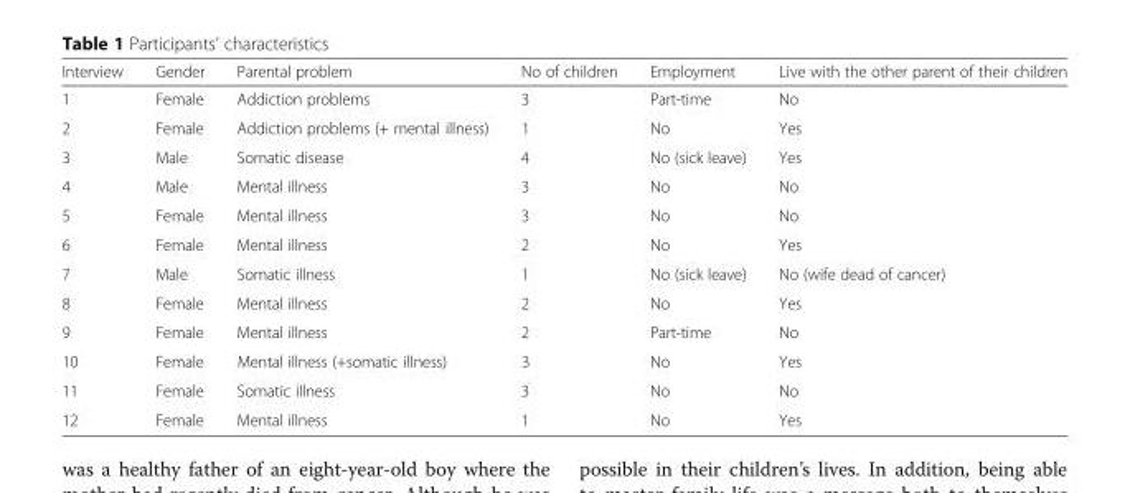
<table><thead><tr><td>Interview</td><td>Gender</td><td>Parental problem</td><td>No of children</td><td>Employment</td><td>Live with the other parent of their children</td></tr></thead><tbody><tr><td>1</td><td>Female</td><td>Addiction problems</td><td>3</td><td>Part-time</td><td>No</td></tr><tr><td>2</td><td>Female</td><td>Addiction problems (+ mental illness)</td><td>1</td><td>No</td><td>Yes</td></tr><tr><td>3</td><td>Male</td><td>Somatic disease</td><td>4</td><td>No (sick leave)</td><td>Yes</td></tr><tr><td>4</td><td>Male</td><td>Mental illness</td><td>3</td><td>No</td><td>No</td></tr><tr><td>5</td><td>Female</td><td>Mental illness</td><td>3</td><td>No</td><td>No</td></tr><tr><td>6</td><td>Female</td><td>Mental illness</td><td>2</td><td>No</td><td>Yes</td></tr><tr><td>7</td><td>Male</td><td>Somatic illness</td><td>1</td><td>No (sick leave)</td><td>No (wife dead of cancer)</td></tr><tr><td>8</td><td>Female</td><td>Mental illness</td><td>2</td><td>No</td><td>Yes</td></tr><tr><td>9</td><td>Female</td><td>Mental illness</td><td>2</td><td>Part-time</td><td>No</td></tr><tr><td>10</td><td>Female</td><td>Mental illness (+somatic illness)</td><td>3</td><td>No</td><td>Yes</td></tr><tr><td>11</td><td>Female</td><td>Somatic illness</td><td>3</td><td>No</td><td>No</td></tr><tr><td>12</td><td>Female</td><td>Mental illness</td><td>1</td><td>No</td><td>Yes</td></tr></tbody></table>